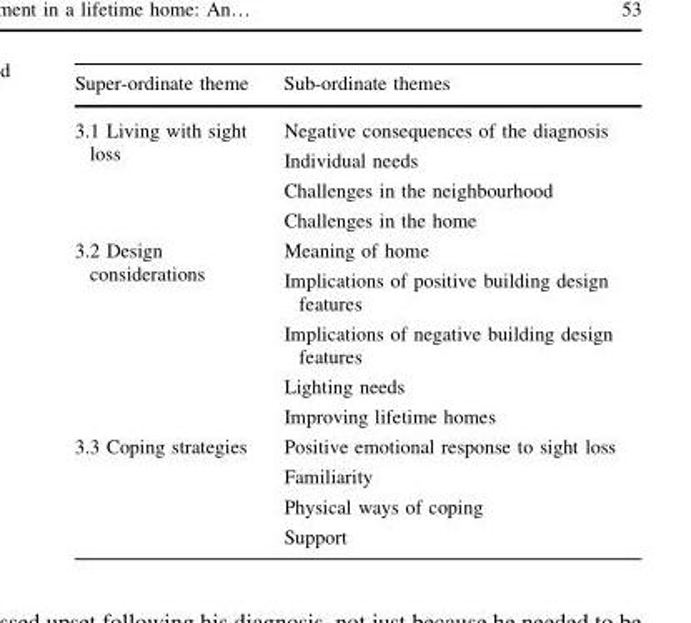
<table><thead><tr><td>Super-ordinate theme</td><td>Sub-ordinate themes</td></tr></thead><tbody><tr><td rowspan="4">3.1 Living with sight loss</td><td>Negative consequences of the diagnosis</td></tr><tr><td>Individual needs</td></tr><tr><td>Challenges in the neighbourhood</td></tr><tr><td>Challenges in the home</td></tr><tr><td rowspan="5">3.2 Design considerations</td><td>Meaning of home</td></tr><tr><td>Implications of positive building design features</td></tr><tr><td>Implications of negative building design features</td></tr><tr><td>Lighting needs</td></tr><tr><td>Improving lifetime homes</td></tr><tr><td rowspan="4">3.3 Coping strategies</td><td>Positive emotional response to sight loss</td></tr><tr><td>Familiarity</td></tr><tr><td>Physical ways of coping</td></tr><tr><td>Support</td></tr></tbody></table>